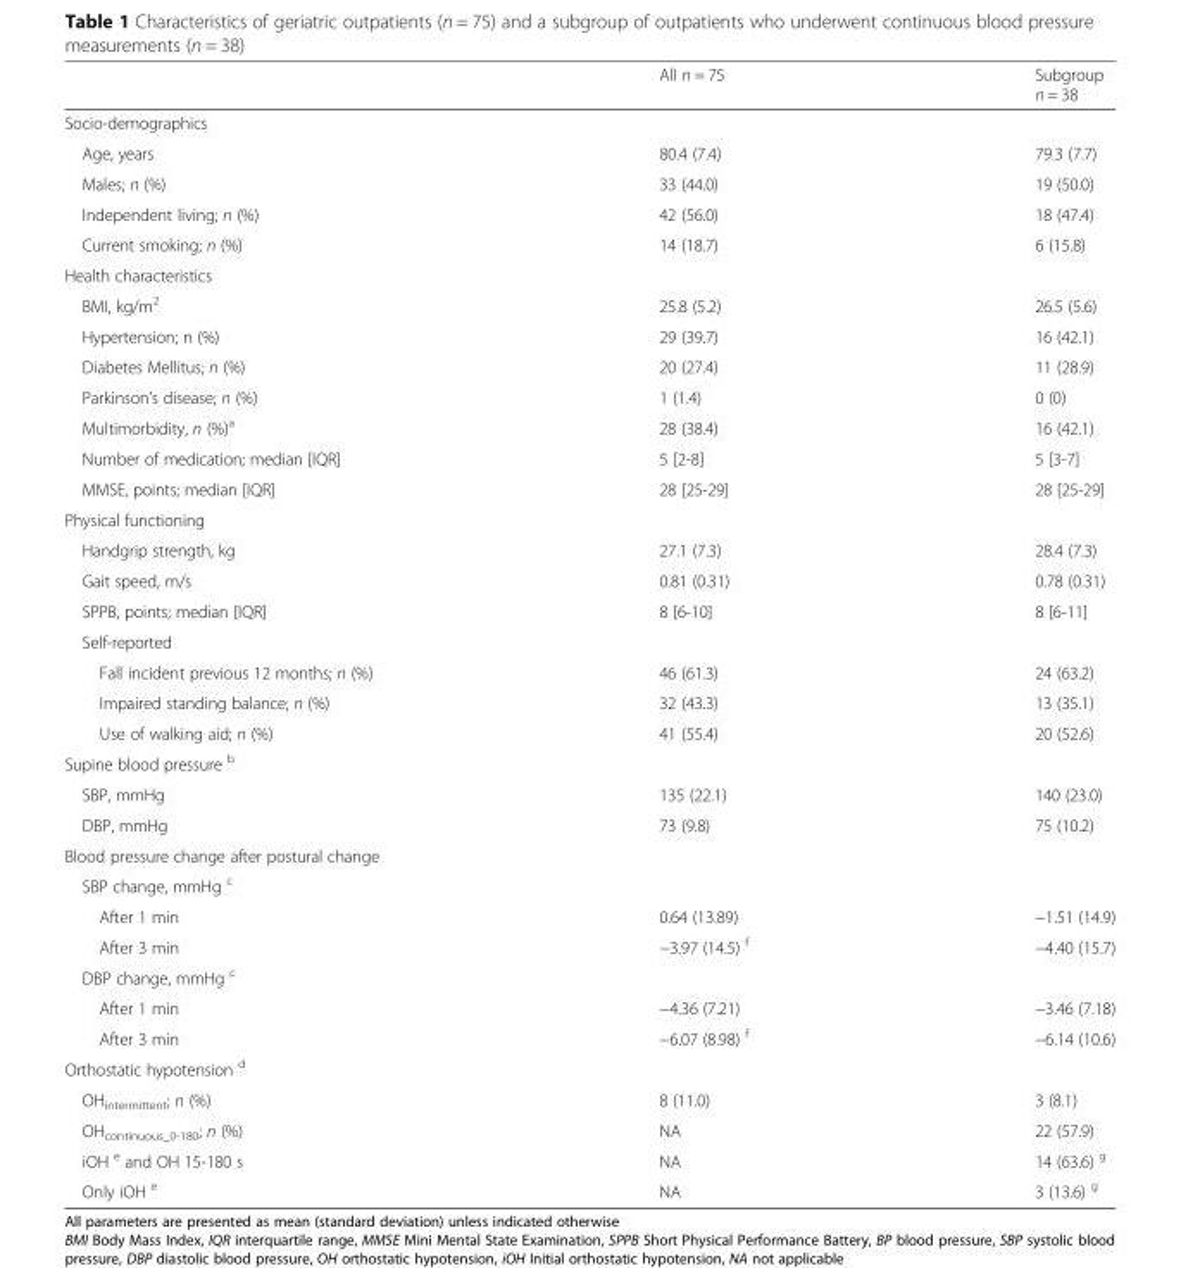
<table><thead><tr><td></td><td>All n = 75</td><td>Subgroup n = 38</td></tr></thead><tbody><tr><td colspan="3">Socio-demographics</td></tr><tr><td>Age, years</td><td>80.4 (7.4)</td><td>79.3 (7.7)</td></tr><tr><td>Males; n (%)</td><td>33 (44.0)</td><td>19 (50.0)</td></tr><tr><td>Independent living; n (%)</td><td>42 (56.0)</td><td>18 (47.4)</td></tr><tr><td>Current smoking; n (%)</td><td>14 (18.7)</td><td>6 (15.8)</td></tr><tr><td colspan="3">Health characteristics</td></tr><tr><td>BMI, kg/m<sup>2</sup></td><td>25.8 (5.2)</td><td>26.5 (5.6)</td></tr><tr><td>Hypertension; n (%)</td><td>29 (39.7)</td><td>16 (42.1)</td></tr><tr><td>Diabetes Mellitus; n (%)</td><td>20 (27.4)</td><td>11 (28.9)</td></tr><tr><td>Parkinson’s disease; n (%)</td><td>1 (1.4)</td><td>0 (0)</td></tr><tr><td>Multimorbidity, n (%)<sup>a</sup></td><td>28 (38.4)</td><td>16 (42.1)</td></tr><tr><td>Number of medication; median [IQR]</td><td>5 [2-8]</td><td>5 [3-7]</td></tr><tr><td>MMSE, points; median [IQR]</td><td>28 [25-29]</td><td>28 [25-29]</td></tr><tr><td colspan="3">Physical functioning</td></tr><tr><td>Handgrip strength, kg</td><td>27.1 (7.3)</td><td>28.4 (7.3)</td></tr><tr><td>Gait speed, m/s</td><td>0.81 (0.31)</td><td>0.78 (0.31)</td></tr><tr><td>SPPB, points; median [IQR]</td><td>8 [6-10]</td><td>8 [6-11]</td></tr><tr><td colspan="3">Self-reported</td></tr><tr><td>Fall incident previous 12 months; n (%)</td><td>46 (61.3)</td><td>24 (63.2)</td></tr><tr><td>Impaired standing balance; n (%)</td><td>32 (43.3)</td><td>13 (35.1)</td></tr><tr><td>Use of walking aid; n (%)</td><td>41 (55.4)</td><td>20 (52.6)</td></tr><tr><td colspan="3">Supine blood pressure <sup>b</sup></td></tr><tr><td>SBP, mmHg</td><td>135 (22.1)</td><td>140 (23.0)</td></tr><tr><td>DBP, mmHg</td><td>73 (9.8)</td><td>75 (10.2)</td></tr><tr><td colspan="3">Blood pressure change after postural change</td></tr><tr><td colspan="3">SBP change, mmHg <sup>c</sup></td></tr><tr><td>After 1 min</td><td>0.64 (13.89)</td><td>−1.51 (14.9)</td></tr><tr><td>After 3 min</td><td>−3.97 (14.5) <sup>f</sup></td><td>−4.40 (15.7)</td></tr><tr><td colspan="3">DBP change, mmHg <sup>c</sup></td></tr><tr><td>After 1 min</td><td>−4.36 (7.21)</td><td>−3.46 (7.18)</td></tr><tr><td>After 3 min</td><td>−6.07 (8.98) <sup>f</sup></td><td>−6.14 (10.6)</td></tr><tr><td colspan="3">Orthostatic hypotension <sup>d</sup></td></tr><tr><td>OH<sub>intermittent</sub>; n (%)</td><td>8 (11.0)</td><td>3 (8.1)</td></tr><tr><td>OH<sub>continuous_0-180</sub>; n (%)</td><td>NA</td><td>22 (57.9)</td></tr><tr><td>iOH <sup>e</sup> and OH 15-180 s</td><td>NA</td><td>14 (63.6) <sup>g</sup></td></tr><tr><td>Only iOH <sup>e</sup></td><td>NA</td><td>3 (13.6) <sup>g</sup></td></tr></tbody></table>